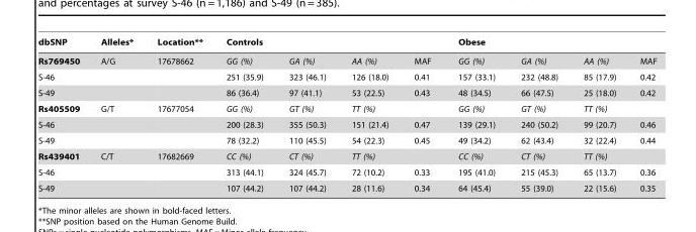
<table><thead><tr><td rowspan="2">dbSNP Rs769450</td><td rowspan="2">Alleles* A/G</td><td rowspan="2">Location** 17678662</td><td colspan="4">Controls</td><td colspan="4">Obese</td></tr><tr><td>GG (%)</td><td>GA (%)</td><td>AA (%)</td><td>MAF</td><td>GG (%)</td><td>GA (%)</td><td>AA (%)</td><td>MAF</td></tr></thead><tbody><tr><td>S-46</td><td></td><td></td><td>251 (35.9)</td><td>323 (46.1)</td><td>126 (18.0)</td><td>0.41</td><td>157 (33.1)</td><td>232 (48.8)</td><td>85 (17.9)</td><td>0.42</td></tr><tr><td>S-49</td><td></td><td></td><td>86 (36.4)</td><td>97 (41.1)</td><td>53 (22.5)</td><td>0.43</td><td>48 (34.5)</td><td>66 (47.5)</td><td>25 (18.0)</td><td>0.42</td></tr><tr><td>Rs405509</td><td>G/T</td><td>17677054</td><td>GG (%)</td><td>GT (%)</td><td>TT (%)</td><td></td><td>GG (%)</td><td>GT (%)</td><td>TT (%)</td><td></td></tr><tr><td>S-46</td><td></td><td></td><td>200 (28.3)</td><td>355 (50.3)</td><td>151 (21.4)</td><td>0.47</td><td>139 (29.1)</td><td>240 (50.2)</td><td>99 (20.7)</td><td>0.46</td></tr><tr><td>S-49</td><td></td><td></td><td>78 (32.2)</td><td>110 (45.5)</td><td>54 (22.3)</td><td>0.45</td><td>49 (34.2)</td><td>62 (43.4)</td><td>32 (22.4)</td><td>0.44</td></tr><tr><td>Rs439401</td><td>C/T</td><td>17682669</td><td>CC (%)</td><td>CT (%)</td><td>TT (%)</td><td></td><td>CC (%)</td><td>CT (%)</td><td>TT (%)</td><td></td></tr><tr><td>S-46</td><td></td><td></td><td>313 (44.1)</td><td>324 (45.7)</td><td>72 (10.2)</td><td>0.33</td><td>195 (41.0)</td><td>215 (45.3)</td><td>65 (13.7)</td><td>0.36</td></tr><tr><td>S-49</td><td></td><td></td><td>107 (44.2)</td><td>107 (44.2)</td><td>28 (11.6)</td><td>0.34</td><td>64 (45.4)</td><td>55 (39.0)</td><td>22 (15.6)</td><td>0.35</td></tr></tbody></table>